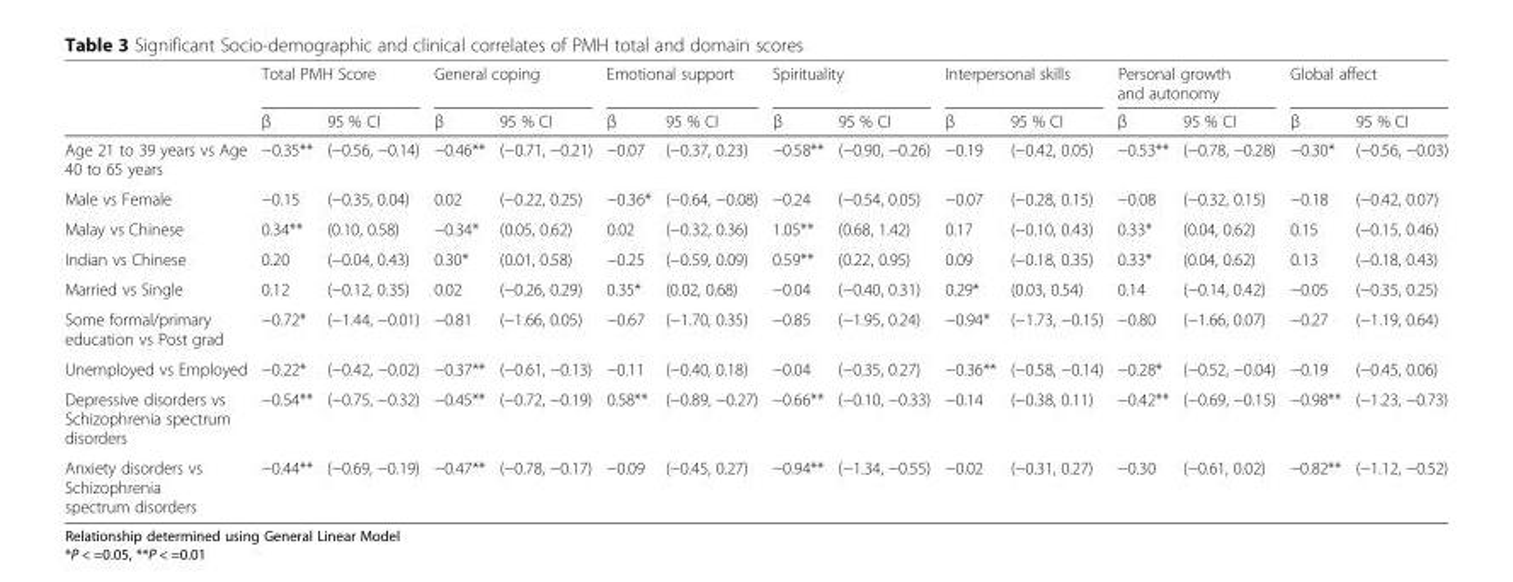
<table><thead><tr><td rowspan="2"></td><td colspan="2">Total PMH Score</td><td colspan="2">General coping</td><td colspan="2">Emotional support</td><td colspan="2">Spirituality</td><td colspan="2">Interpersonal skills</td><td colspan="2">Personal growth and autonomy</td><td colspan="2">Global affect</td></tr><tr><td>β</td><td>95 % CI</td><td>β</td><td>95 % CI</td><td>β</td><td>95 % CI</td><td>β</td><td>95 % CI</td><td>β</td><td>95 % CI</td><td>β</td><td>95 % CI</td><td>β</td><td>95 % CI</td></tr></thead><tbody><tr><td>Age 21 to 39 years vs Age 40 to 65 years</td><td>−0.35**</td><td>(−0.56, −0.14)</td><td>−0.46**</td><td>(−0.71, −0.21)</td><td>−0.07</td><td>(−0.37, 0.23)</td><td>−0.58**</td><td>(−0.90, −0.26)</td><td>−0.19</td><td>(−0.42, 0.05)</td><td>−0.53**</td><td>(−0.78, −0.28)</td><td>−0.30*</td><td>(−0.56, −0.03)</td></tr><tr><td>Male vs Female</td><td>−0.15</td><td>(−0.35, 0.04)</td><td>0.02</td><td>(−0.22, 0.25)</td><td>−0.36*</td><td>(−0.64, −0.08)</td><td>−0.24</td><td>(−0.54, 0.05)</td><td>−0.07</td><td>(−0.28, 0.15)</td><td>−0.08</td><td>(−0.32, 0.15)</td><td>−0.18</td><td>(−0.42, 0.07)</td></tr><tr><td>Malay vs Chinese</td><td>0.34**</td><td>(0.10, 0.58)</td><td>−0.34*</td><td>(0.05, 0.62)</td><td>0.02</td><td>(−0.32, 0.36)</td><td>1.05**</td><td>(0.68, 1.42)</td><td>0.17</td><td>(−0.10, 0.43)</td><td>0.33*</td><td>(0.04, 0.62)</td><td>0.15</td><td>(−0.15, 0.46)</td></tr><tr><td>Indian vs Chinese</td><td>0.20</td><td>(−0.04, 0.43)</td><td>0.30*</td><td>(0.01, 0.58)</td><td>−0.25</td><td>(−0.59, 0.09)</td><td>0.59**</td><td>(0.22, 0.95)</td><td>0.09</td><td>(−0.18, 0.35)</td><td>0.33*</td><td>(0.04, 0.62)</td><td>0.13</td><td>(−0.18, 0.43)</td></tr><tr><td>Married vs Single</td><td>0.12</td><td>(−0.12, 0.35)</td><td>0.02</td><td>(−0.26, 0.29)</td><td>0.35*</td><td>(0.02, 0.68)</td><td>−0.04</td><td>(−0.40, 0.31)</td><td>0.29*</td><td>(0.03, 0.54)</td><td>0.14</td><td>(−0.14, 0.42)</td><td>−0.05</td><td>(−0.35, 0.25)</td></tr><tr><td>Some formal/primary education vs Post grad</td><td>−0.72*</td><td>(−1.44, −0.01)</td><td>−0.81</td><td>(−1.66, 0.05)</td><td>−0.67</td><td>(−1.70, 0.35)</td><td>−0.85</td><td>(−1.95, 0.24)</td><td>−0.94*</td><td>(−1.73, −0.15)</td><td>−0.80</td><td>(−1.66, 0.07)</td><td>−0.27</td><td>(−1.19, 0.64)</td></tr><tr><td>Unemployed vs Employed</td><td>−0.22*</td><td>(−0.42, −0.02)</td><td>−0.37**</td><td>(−0.61, −0.13)</td><td>−0.11</td><td>(−0.40, 0.18)</td><td>−0.04</td><td>(−0.35, 0.27)</td><td>−0.36**</td><td>(−0.58, −0.14)</td><td>−0.28*</td><td>(−0.52, −0.04)</td><td>−0.19</td><td>(−0.45, 0.06)</td></tr><tr><td>Depressive disorders vs Schizophrenia spectrum disorders</td><td>−0.54**</td><td>(−0.75, −0.32)</td><td>−0.45**</td><td>(−0.72, −0.19)</td><td>0.58**</td><td>(−0.89, −0.27)</td><td>−0.66**</td><td>(−0.10, −0.33)</td><td>−0.14</td><td>(−0.38, 0.11)</td><td>−0.42**</td><td>(−0.69, −0.15)</td><td>−0.98**</td><td>(−1.23, −0.73)</td></tr><tr><td>Anxiety disorders vs Schizophrenia spectrum disorders</td><td>−0.44**</td><td>(−0.69, −0.19)</td><td>−0.47**</td><td>(−0.78, −0.17)</td><td>−0.09</td><td>(−0.45, 0.27)</td><td>−0.94**</td><td>(−1.34, −0.55)</td><td>−0.02</td><td>(−0.31, 0.27)</td><td>−0.30</td><td>(−0.61, 0.02)</td><td>−0.82**</td><td>(−1.12, −0.52)</td></tr></tbody></table>